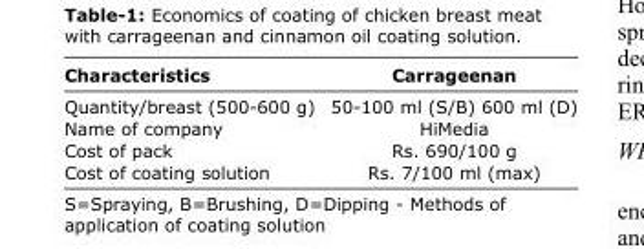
<table><thead><tr><td>Characteristics</td><td>Carrageenan</td></tr></thead><tbody><tr><td>Quantity/breast (500-600 g)</td><td>50-100 ml (S/B) 600 ml (D)</td></tr><tr><td>Name of company</td><td>HiMedia</td></tr><tr><td>Cost of pack</td><td>Rs. 690/100 g</td></tr><tr><td>Cost of coating solution</td><td>Rs. 7/100 ml (max)</td></tr></tbody></table>